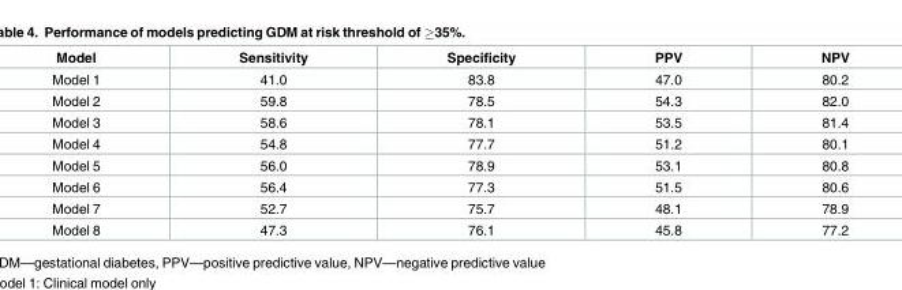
<table><thead><tr><td>Model</td><td>Sensitivity</td><td>Specificity</td><td>PPV</td><td>NPV</td></tr></thead><tbody><tr><td>Model 1</td><td>41.0</td><td>83.8</td><td>47.0</td><td>80.2</td></tr><tr><td>Model 2</td><td>59.8</td><td>78.5</td><td>54.3</td><td>82.0</td></tr><tr><td>Model 3</td><td>58.6</td><td>78.1</td><td>53.5</td><td>81.4</td></tr><tr><td>Model 4</td><td>54.8</td><td>77.7</td><td>51.2</td><td>80.1</td></tr><tr><td>Model 5</td><td>56.0</td><td>78.9</td><td>53.1</td><td>80.8</td></tr><tr><td>Model 6</td><td>56.4</td><td>77.3</td><td>51.5</td><td>80.6</td></tr><tr><td>Model 7</td><td>52.7</td><td>75.7</td><td>48.1</td><td>78.9</td></tr><tr><td>Model 8</td><td>47.3</td><td>76.1</td><td>45.8</td><td>77.2</td></tr></tbody></table>